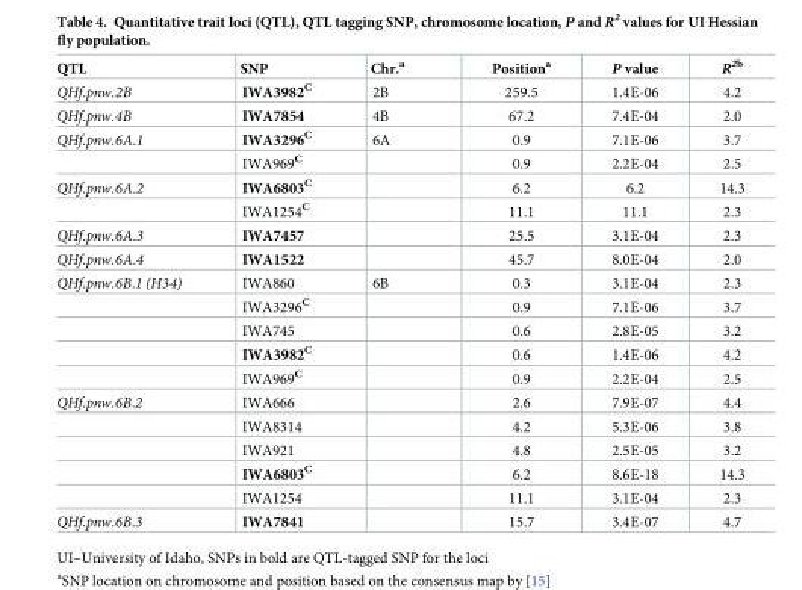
<table><thead><tr><td>QTL</td><td>SNP</td><td>Chr.<sup>a</sup></td><td>Position<sup>a</sup></td><td>P value</td><td>R<sup>2b</sup></td></tr></thead><tbody><tr><td>QHf.pnw.2B</td><td>IWA3982<sup>C</sup></td><td>2B</td><td>259.5</td><td>1.4E-06</td><td>4.2</td></tr><tr><td>QHf.pnw.4B</td><td>IWA7854</td><td>4B</td><td>67.2</td><td>7.4E-04</td><td>2.0</td></tr><tr><td rowspan="2">QHf.pnw.6A.1</td><td>IWA3296<sup>C</sup></td><td>6A</td><td>0.9</td><td>7.1E-06</td><td>3.7</td></tr><tr><td>IWA969<sup>C</sup></td><td></td><td>0.9</td><td>2.2E-04</td><td>2.5</td></tr><tr><td rowspan="2">QHf.pnw.6A.2</td><td>IWA6803<sup>C</sup></td><td></td><td>6.2</td><td>6.2</td><td>14.3</td></tr><tr><td>IWA1254<sup>C</sup></td><td></td><td>11.1</td><td>11.1</td><td>2.3</td></tr><tr><td>QHf.pnw.6A.3</td><td>IWA7457</td><td></td><td>25.5</td><td>3.1E-04</td><td>2.3</td></tr><tr><td>QHf.pnw.6A.4</td><td>IWA1522</td><td></td><td>45.7</td><td>8.0E-04</td><td>2.0</td></tr><tr><td rowspan="5">QHf.pnw.6B.1 (H34)</td><td>IWA860</td><td>6B</td><td>0.3</td><td>3.1E-04</td><td>2.3</td></tr><tr><td>IWA3296<sup>C</sup></td><td></td><td>0.9</td><td>7.1E-06</td><td>3.7</td></tr><tr><td>IWA745</td><td></td><td>0.6</td><td>2.8E-05</td><td>3.2</td></tr><tr><td>IWA3982<sup>C</sup></td><td></td><td>0.6</td><td>1.4E-06</td><td>4.2</td></tr><tr><td>IWA969<sup>C</sup></td><td></td><td>0.9</td><td>2.2E-04</td><td>2.5</td></tr><tr><td rowspan="5">QHf.pnw.6B.2</td><td>IWA666</td><td></td><td>2.6</td><td>7.9E-07</td><td>4.4</td></tr><tr><td>IWA8314</td><td></td><td>4.2</td><td>5.3E-06</td><td>3.8</td></tr><tr><td>IWA921</td><td></td><td>4.8</td><td>2.5E-05</td><td>3.2</td></tr><tr><td>IWA6803<sup>C</sup></td><td></td><td>6.2</td><td>8.6E-18</td><td>14.3</td></tr><tr><td>IWA1254</td><td></td><td>11.1</td><td>3.1E-04</td><td>2.3</td></tr><tr><td>QHf.pnw.6B.3</td><td>IWA7841</td><td></td><td>15.7</td><td>3.4E-07</td><td>4.7</td></tr></tbody></table>